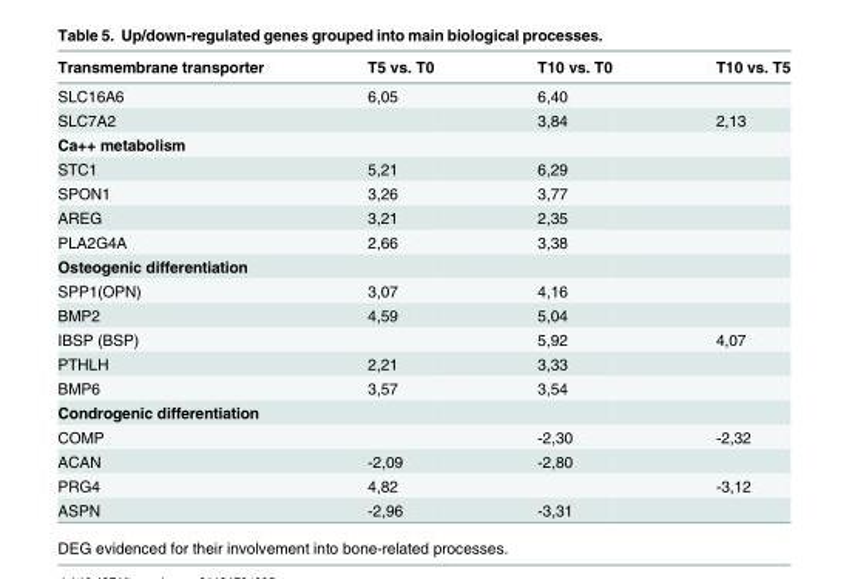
<table><thead><tr><td>Transmembrane transporter</td><td>T5 vs. T0</td><td>T10 vs. T0</td><td>T10 vs. T5</td></tr></thead><tbody><tr><td>SLC16A6</td><td>6,05</td><td>6,40</td><td></td></tr><tr><td>SLC7A2</td><td></td><td>3,84</td><td>2,13</td></tr><tr><td colspan="4">Ca++ metabolism</td></tr><tr><td>STC1</td><td>5,21</td><td>6,29</td><td></td></tr><tr><td>SPON1</td><td>3,26</td><td>3,77</td><td></td></tr><tr><td>AREG</td><td>3,21</td><td>2,35</td><td></td></tr><tr><td>PLA2G4A</td><td>2,66</td><td>3,38</td><td></td></tr><tr><td colspan="4">Osteogenic differentiation</td></tr><tr><td>SPP1(OPN)</td><td>3,07</td><td>4,16</td><td></td></tr><tr><td>BMP2</td><td>4,59</td><td>5,04</td><td></td></tr><tr><td>IBSP (BSP)</td><td></td><td>5,92</td><td>4,07</td></tr><tr><td>PTHLH</td><td>2,21</td><td>3,33</td><td></td></tr><tr><td>BMP6</td><td>3,57</td><td>3,54</td><td></td></tr><tr><td colspan="4">Condrogenic differentiation</td></tr><tr><td>COMP</td><td></td><td>-2,30</td><td>-2,32</td></tr><tr><td>ACAN</td><td>-2,09</td><td>-2,80</td><td></td></tr><tr><td>PRG4</td><td>4,82</td><td></td><td>-3,12</td></tr><tr><td>ASPN</td><td>-2,96</td><td>-3,31</td><td></td></tr></tbody></table>